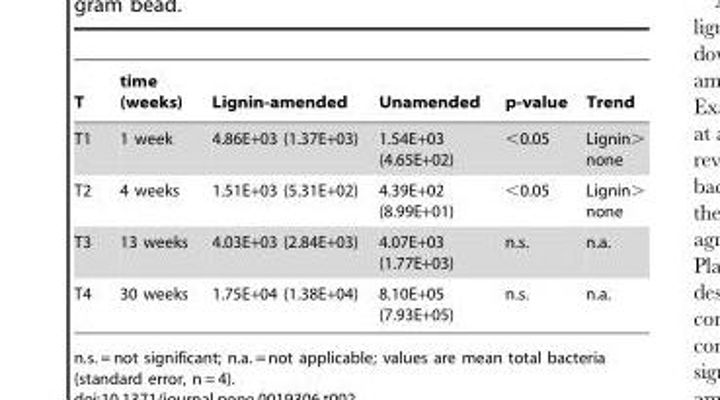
<table><thead><tr><td>T</td><td>time (weeks)</td><td>Lignin-amended</td><td>Unamended</td><td>p-value</td><td>Trend</td></tr></thead><tbody><tr><td>T1</td><td>1 week</td><td>4.86E+03 (1.37E+03)</td><td>1.54E+03 (4.65E+02)</td><td>&lt;0.05</td><td>Lignin&gt; none</td></tr><tr><td>T2</td><td>4 weeks</td><td>1.51E+03 (5.31E+02)</td><td>4.39E+02 (8.99E+01)</td><td>&lt;0.05</td><td>Lignin&gt; none</td></tr><tr><td>T3</td><td>13 weeks</td><td>4.03E+03 (2.84E+03)</td><td>4.07E+03 (1.77E+03)</td><td>n.s.</td><td>n.a.</td></tr><tr><td>T4</td><td>30 weeks</td><td>1.75E+04 (1.38E+04)</td><td>8.10E+05 (7.93E+05)</td><td>n.s.</td><td>n.a.</td></tr></tbody></table>